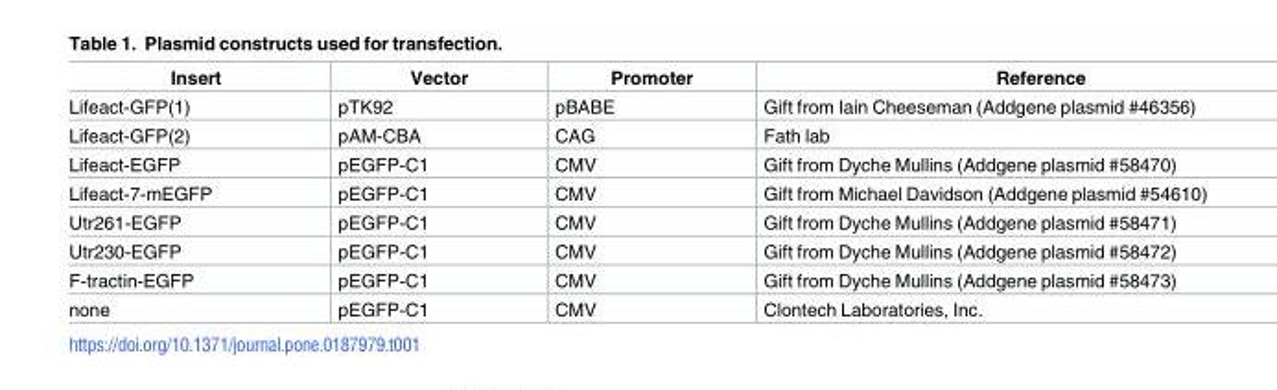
<table><thead><tr><td>Insert</td><td>Vector</td><td>Promoter</td><td>Reference</td></tr></thead><tbody><tr><td>Lifeact-GFP(1)</td><td>pTK92</td><td>pBABE</td><td>Gift from Iain Cheeseman (Addgene plasmid #46356)</td></tr><tr><td>Lifeact-GFP(2)</td><td>pAM-CBA</td><td>CAG</td><td>Fath lab</td></tr><tr><td>Lifeact-EGFP</td><td>pEGFP-C1</td><td>CMV</td><td>Gift from Dyche Mullins (Addgene plasmid #58470)</td></tr><tr><td>Lifeact-7-mEGFP</td><td>pEGFP-C1</td><td>CMV</td><td>Gift from Michael Davidson (Addgene plasmid #54610)</td></tr><tr><td>Utr261-EGFP</td><td>pEGFP-C1</td><td>CMV</td><td>Gift from Dyche Mullins (Addgene plasmid #58471)</td></tr><tr><td>Utr230-EGFP</td><td>pEGFP-C1</td><td>CMV</td><td>Gift from Dyche Mullins (Addgene plasmid #58472)</td></tr><tr><td>F-tractin-EGFP</td><td>pEGFP-C1</td><td>CMV</td><td>Gift from Dyche Mullins (Addgene plasmid #58473)</td></tr><tr><td>none</td><td>pEGFP-C1</td><td>CMV</td><td>Clontech Laboratories, Inc.</td></tr></tbody></table>